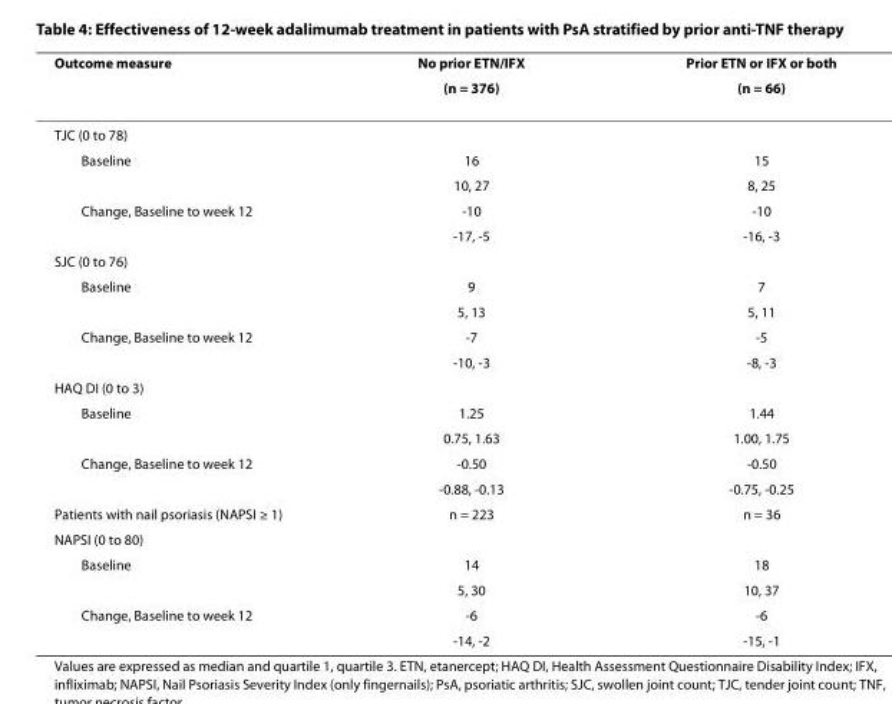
<table><thead><tr><td rowspan="2">Outcome measure</td><td rowspan="2">No prior ETN/IFX (n = 376)</td><td rowspan="2">Prior ETN or IFX or both (n = 66)</td></tr><tr></tr></thead><tbody><tr><td colspan="3">TJC (0 to 78)</td></tr><tr><td rowspan="2">Baseline</td><td>16</td><td>15</td></tr><tr><td>10, 27</td><td>8, 25</td></tr><tr><td rowspan="2">Change, Baseline to week 12</td><td>-10</td><td>-10</td></tr><tr><td>-17, -5</td><td>-16, -3</td></tr><tr><td colspan="3">SJC (0 to 76)</td></tr><tr><td rowspan="2">Baseline</td><td>9</td><td>7</td></tr><tr><td>5, 13</td><td>5, 11</td></tr><tr><td rowspan="2">Change, Baseline to week 12</td><td>-7</td><td>-5</td></tr><tr><td>-10, -3</td><td>-8, -3</td></tr><tr><td colspan="3">HAQ DI (0 to 3)</td></tr><tr><td rowspan="2">Baseline</td><td>1.25</td><td>1.44</td></tr><tr><td>0.75, 1.63</td><td>1.00, 1.75</td></tr><tr><td rowspan="2">Change, Baseline to week 12</td><td>-0.50</td><td>-0.50</td></tr><tr><td>-0.88, -0.13</td><td>-0.75, -0.25</td></tr><tr><td>Patients with nail psoriasis (NAPSI ≥ 1)</td><td>n = 223</td><td>n = 36</td></tr><tr><td colspan="3">NAPSI (0 to 80)</td></tr><tr><td rowspan="2">Baseline</td><td>14</td><td>18</td></tr><tr><td>5, 30</td><td>10, 37</td></tr><tr><td rowspan="2">Change, Baseline to week 12</td><td>-6</td><td>-6</td></tr><tr><td>-14, -2</td><td>-15, -1</td></tr></tbody></table>